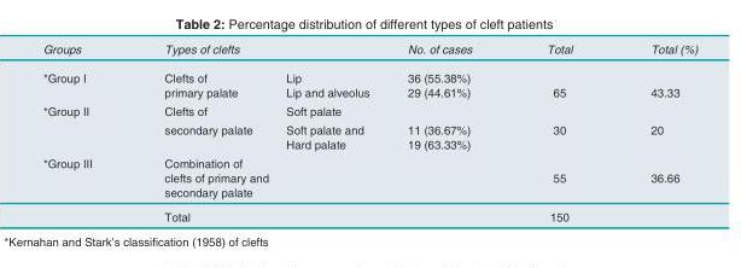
<table><tbody><tr><td>Groups</td><td>Types of clefts</td><td></td><td>No. of cases</td><td>Total</td><td>Total (%)</td></tr><tr><td rowspan="2">*Group I</td><td>Clefts of</td><td>Lip</td><td>36 (55.38%)</td><td></td><td></td></tr><tr><td>primary palate</td><td>Lip and alveolus</td><td>29 (44.61%)</td><td>65</td><td>43.33</td></tr><tr><td rowspan="3">*Group II</td><td>Clefts of</td><td>Soft palate</td><td></td><td></td><td></td></tr><tr><td>secondary palate</td><td>Soft palate and</td><td>11 (36.67%)</td><td>30</td><td>20</td></tr><tr><td></td><td>Hard palate</td><td>19 (63.33%)</td><td></td><td></td></tr><tr><td rowspan="2">*Group III</td><td>Combination of clefts of primary and secondary palate</td><td></td><td></td><td>55</td><td>36.66</td></tr><tr><td>Total</td><td></td><td></td><td>150</td><td></td></tr></tbody></table>